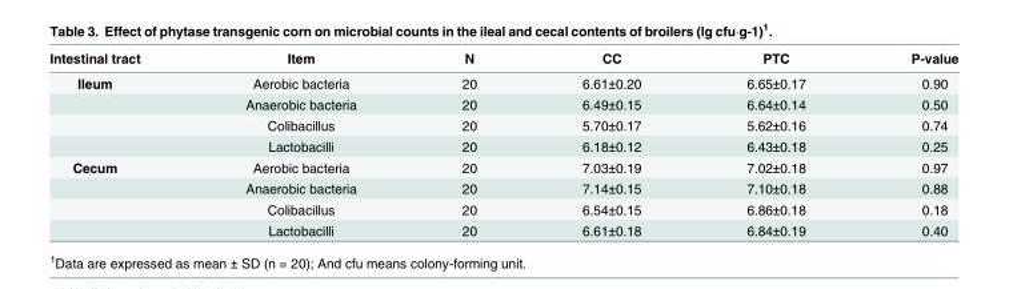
<table><thead><tr><td>Intestinal tract</td><td>Item</td><td>N</td><td>CC</td><td>PTC</td><td>P-value</td></tr></thead><tbody><tr><td rowspan="4">Ileum</td><td>Aerobic bacteria</td><td>20</td><td>6.61±0.20</td><td>6.65±0.17</td><td>0.90</td></tr><tr><td>Anaerobic bacteria</td><td>20</td><td>6.49±0.15</td><td>6.64±0.14</td><td>0.50</td></tr><tr><td>Colibacillus</td><td>20</td><td>5.70±0.17</td><td>5.62±0.16</td><td>0.74</td></tr><tr><td>Lactobacilli</td><td>20</td><td>6.18±0.12</td><td>6.43±0.18</td><td>0.25</td></tr><tr><td rowspan="4">Cecum</td><td>Aerobic bacteria</td><td>20</td><td>7.03±0.19</td><td>7.02±0.18</td><td>0.97</td></tr><tr><td>Anaerobic bacteria</td><td>20</td><td>7.14±0.15</td><td>7.10±0.18</td><td>0.88</td></tr><tr><td>Colibacillus</td><td>20</td><td>6.54±0.15</td><td>6.86±0.18</td><td>0.18</td></tr><tr><td>Lactobacilli</td><td>20</td><td>6.61±0.18</td><td>6.84±0.19</td><td>0.40</td></tr></tbody></table>